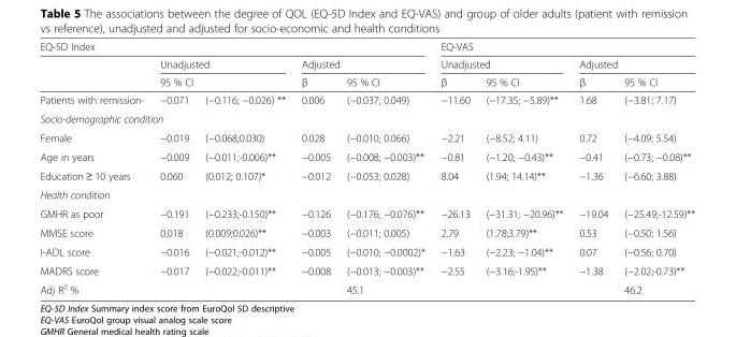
<table><thead><tr><td colspan="5">EQ-5D Index</td><td colspan="4">EQ-VAS</td></tr><tr><td rowspan="3">Patients with remission-</td><td rowspan="2" colspan="2">Unadjusted 95 % CI</td><td colspan="2">Adjusted</td><td colspan="2">Unadjusted</td><td colspan="2">Adjusted</td></tr><tr><td rowspan="2">β 0.006</td><td rowspan="2">95 % CI (−0.037; 0.049)</td><td rowspan="2">β −11.60</td><td rowspan="2">95 % CI (−17.35; −5.89)**</td><td rowspan="2">β 1.68</td><td rowspan="2">95 % CI (−3.81; 7.17)</td></tr><tr><td>−0.071</td><td>(−0.116; −0.026) **</td></tr></thead><tbody><tr><td colspan="9">Socio-demographic condition</td></tr><tr><td>Female</td><td>−0.019</td><td>(−0.068;0.030)</td><td>0.028</td><td>(−0.010; 0.066)</td><td>−2.21</td><td>(−8.52; 4.11)</td><td>0.72</td><td>(−4.09; 5.54)</td></tr><tr><td>Age in years</td><td>−0.009</td><td>(−0.011;-0.006)**</td><td>−0.005</td><td>(−0.008; −0.003)**</td><td>−0.81</td><td>(−1.20; −0.43)**</td><td>−0.41</td><td>(−0.73; −0.08)**</td></tr><tr><td>Education ≥ 10 years</td><td>0.060</td><td>(0.012; 0.107)*</td><td>−0.012</td><td>(−0.053; 0.028)</td><td>8.04</td><td>(1.94; 14.14)**</td><td>−1.36</td><td>(−6.60; 3.88)</td></tr><tr><td colspan="9">Health condition</td></tr><tr><td>GMHR as poor</td><td>−0.191</td><td>(−0.233;-0.150)**</td><td>−0.126</td><td>(−0.176; −0.076)**</td><td>−26.13</td><td>(−31.31; −20.96)**</td><td>−19.04</td><td>(−25.49;-12.59)**</td></tr><tr><td>MMSE score</td><td>0.018</td><td>(0.009;0.026)**</td><td>−0.003</td><td>(−0.011; 0.005)</td><td>2.79</td><td>(1.78;3.79)**</td><td>0.53</td><td>(−0.50; 1.56)</td></tr><tr><td>I-ADL score</td><td>−0.016</td><td>(−0.021;-0.012)**</td><td>−0.005</td><td>(−0.010; −0.0002)*</td><td>−1.63</td><td>(−2.23; −1.04)**</td><td>0.07</td><td>(−0.56; 0.70)</td></tr><tr><td>MADRS score</td><td>−0.017</td><td>(−0.022;-0.011)**</td><td>−0.008</td><td>(−0.013; −0.003)**</td><td>−2.55</td><td>(−3.16;-1.95)**</td><td>−1.38</td><td>(−2.02;-0.73)**</td></tr><tr><td colspan="3">Adj R<sup>2</sup> %</td><td></td><td>45.1</td><td></td><td colspan="2"></td><td>46.2</td></tr></tbody></table>